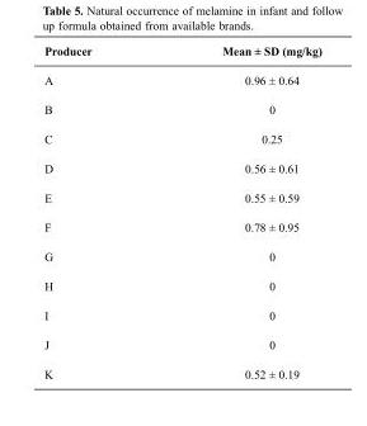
<table><thead><tr><td>Producer</td><td>Mean ± SD (mg/kg)</td></tr></thead><tbody><tr><td>A</td><td>0.96 ± 0.64</td></tr><tr><td>B</td><td>0</td></tr><tr><td>C</td><td>0.25</td></tr><tr><td>D</td><td>0.56 ± 0.61</td></tr><tr><td>E</td><td>0.55 ± 0.59</td></tr><tr><td>F</td><td>0.78 ± 0.95</td></tr><tr><td>G</td><td>0</td></tr><tr><td>H</td><td>0</td></tr><tr><td>I</td><td>0</td></tr><tr><td>J</td><td>0</td></tr><tr><td>K</td><td>0.52 ± 0.19</td></tr></tbody></table>